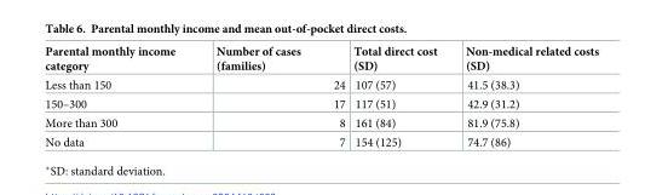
<table><thead><tr><td>Parental monthly income category</td><td>Number of cases (families)</td><td>Total direct cost (SD)</td><td>Non-medical related costs (SD)</td></tr></thead><tbody><tr><td>Less than 150</td><td>24</td><td>107 (57)</td><td>41.5 (38.3)</td></tr><tr><td>150–300</td><td>17</td><td>117 (51)</td><td>42.9 (31.2)</td></tr><tr><td>More than 300</td><td>8</td><td>161 (84)</td><td>81.9 (75.8)</td></tr><tr><td>No data</td><td>7</td><td>154 (125)</td><td>74.7 (86)</td></tr></tbody></table>